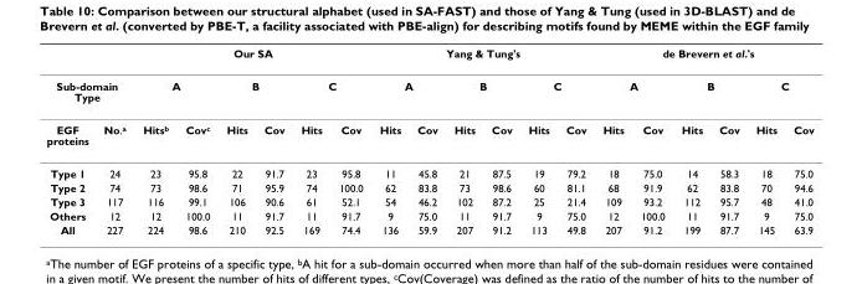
<table><thead><tr><td></td><td></td><td colspan="6">Our SA</td><td colspan="6">Yang &amp; Tung&#x27;s</td><td colspan="6">de Brevern et al.&#x27;s</td></tr><tr><td colspan="2">Sub-domain Type</td><td colspan="2">A</td><td colspan="2">B</td><td colspan="2">C</td><td colspan="2">A</td><td colspan="2">B</td><td colspan="2">C</td><td colspan="2">A</td><td colspan="2">B</td><td colspan="2">C</td></tr><tr><td>EGF proteins</td><td>No.<sup>a</sup></td><td>Hits<sup>b</sup></td><td>Cov<sup>c</sup></td><td>Hits</td><td>Cov</td><td>Hits</td><td>Cov</td><td>Hits</td><td>Cov</td><td>Hits</td><td>Cov</td><td>Hits</td><td>Cov</td><td>Hits</td><td>Cov</td><td>Hits</td><td>Cov</td><td>Hits</td><td>Cov</td></tr></thead><tbody><tr><td>Type 1</td><td>24</td><td>23</td><td>95.8</td><td>22</td><td>91.7</td><td>23</td><td>95.8</td><td>11</td><td>45.8</td><td>21</td><td>87.5</td><td>19</td><td>79.2</td><td>18</td><td>75.0</td><td>14</td><td>58.3</td><td>18</td><td>75.0</td></tr><tr><td>Type 2</td><td>74</td><td>73</td><td>98.6</td><td>71</td><td>95.9</td><td>74</td><td>100.0</td><td>62</td><td>83.8</td><td>73</td><td>98.6</td><td>60</td><td>81.1</td><td>68</td><td>91.9</td><td>62</td><td>83.8</td><td>70</td><td>94.6</td></tr><tr><td>Type 3</td><td>117</td><td>116</td><td>99.1</td><td>106</td><td>90.6</td><td>61</td><td>52.1</td><td>54</td><td>46.2</td><td>102</td><td>87.2</td><td>25</td><td>21.4</td><td>109</td><td>93.2</td><td>112</td><td>95.7</td><td>48</td><td>41.0</td></tr><tr><td>Others</td><td>12</td><td>12</td><td>100.0</td><td>11</td><td>91.7</td><td>11</td><td>91.7</td><td>9</td><td>75.0</td><td>11</td><td>91.7</td><td>9</td><td>75.0</td><td>12</td><td>100.0</td><td>11</td><td>91.7</td><td>9</td><td>75.0</td></tr><tr><td>All</td><td>227</td><td>224</td><td>98.6</td><td>210</td><td>92.5</td><td>169</td><td>74.4</td><td>136</td><td>59.9</td><td>207</td><td>91.2</td><td>113</td><td>49.8</td><td>207</td><td>91.2</td><td>199</td><td>87.7</td><td>145</td><td>63.9</td></tr></tbody></table>